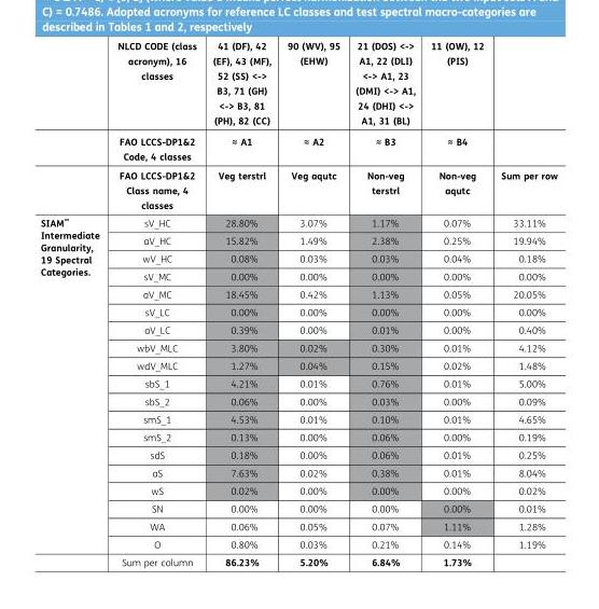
<table><thead><tr><td rowspan="3"></td><td rowspan="3">NLCD CODE (class acronym), 16 classes FAO LCCS-DP1&amp;2 Code, 4 classes FAO LCCS-DP1&amp;2 Class name, 4 classes</td><td rowspan="3">41 (DF), 42 (EF), 43 (MF), 52 (SS) &lt;-&gt; B3, 71 (GH) &lt;-&gt; B3, 81 (PH), 82 (CC) ≈ A1 Veg terstrl</td><td rowspan="3">90 (WV), 95 (EHW) ≈ A2 Veg aqutc</td><td rowspan="3">21 (DOS) &lt;-&gt; A1, 22 (DLI) &lt;-&gt; A1, 23 (DMI) &lt;-&gt; A1, 24 (DHI) &lt;-&gt; A1, 31 (BL) ≈ B3 Non-veg terstrl</td><td rowspan="3">11 (OW), 12 (PIS) ≈ B4 Non-veg aqutc</td><td rowspan="3">Sum per row</td></tr><tr></tr><tr></tr></thead><tbody><tr><td rowspan="20">SIAM™ Intermediate Granularity, 19 Spectral Categories.</td><td>sV_HC</td><td>28.80%</td><td>3.07%</td><td>1.17%</td><td>0.07%</td><td>33.11%</td></tr><tr><td>aV_HC</td><td>15.82%</td><td>1.49%</td><td>2.38%</td><td>0.25%</td><td>19.94%</td></tr><tr><td>wV_HC</td><td>0.08%</td><td>0.03%</td><td>0.03%</td><td>0.04%</td><td>0.18%</td></tr><tr><td>sV_MC</td><td>0.00%</td><td>0.00%</td><td>0.00%</td><td>0.00%</td><td>0.00%</td></tr><tr><td>aV_MC</td><td>18.45%</td><td>0.42%</td><td>1.13%</td><td>0.05%</td><td>20.05%</td></tr><tr><td>sV_LC</td><td>0.00%</td><td>0.00%</td><td>0.00%</td><td>0.00%</td><td>0.00%</td></tr><tr><td>aV_LC</td><td>0.39%</td><td>0.00%</td><td>0.01%</td><td>0.00%</td><td>0.40%</td></tr><tr><td>wbV_MLC</td><td>3.80%</td><td>0.02%</td><td>0.30%</td><td>0.01%</td><td>4.12%</td></tr><tr><td>wdV_MLC</td><td>1.27%</td><td>0.04%</td><td>0.15%</td><td>0.02%</td><td>1.48%</td></tr><tr><td>sbS_1</td><td>4.21%</td><td>0.01%</td><td>0.76%</td><td>0.01%</td><td>5.00%</td></tr><tr><td>sbS_2</td><td>0.06%</td><td>0.00%</td><td>0.03%</td><td>0.00%</td><td>0.09%</td></tr><tr><td>smS_1</td><td>4.53%</td><td>0.01%</td><td>0.10%</td><td>0.01%</td><td>4.65%</td></tr><tr><td>smS_2</td><td>0.13%</td><td>0.00%</td><td>0.06%</td><td>0.00%</td><td>0.19%</td></tr><tr><td>sdS</td><td>0.18%</td><td>0.00%</td><td>0.06%</td><td>0.01%</td><td>0.25%</td></tr><tr><td>aS</td><td>7.63%</td><td>0.02%</td><td>0.38%</td><td>0.01%</td><td>8.04%</td></tr><tr><td>wS</td><td>0.02%</td><td>0.00%</td><td>0.00%</td><td>0.00%</td><td>0.02%</td></tr><tr><td>SN</td><td>0.00%</td><td>0.00%</td><td>0.00%</td><td>0.00%</td><td>0.01%</td></tr><tr><td>WA</td><td>0.06%</td><td>0.05%</td><td>0.07%</td><td>1.11%</td><td>1.28%</td></tr><tr><td>O</td><td>0.80%</td><td>0.03%</td><td>0.21%</td><td>0.14%</td><td>1.19%</td></tr><tr><td>Sum per column</td><td>86.23%</td><td>5.20%</td><td>6.84%</td><td>1.73%</td><td></td></tr></tbody></table>